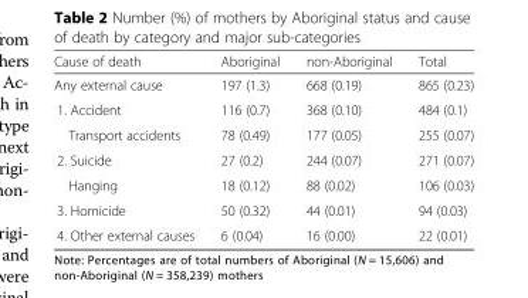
<table><thead><tr><td>Cause of death</td><td>Aboriginal</td><td>non-Aboriginal</td><td>Total</td></tr></thead><tbody><tr><td>Any external cause</td><td>197 (1.3)</td><td>668 (0.19)</td><td>865 (0.23)</td></tr><tr><td>1. Accident</td><td>116 (0.7)</td><td>368 (0.10)</td><td>484 (0.1)</td></tr><tr><td>Transport accidents</td><td>78 (0.49)</td><td>177 (0.05)</td><td>255 (0.07)</td></tr><tr><td>2. Suicide</td><td>27 (0.2)</td><td>244 (0.07)</td><td>271 (0.07)</td></tr><tr><td>Hanging</td><td>18 (0.12)</td><td>88 (0.02)</td><td>106 (0.03)</td></tr><tr><td>3. Homicide</td><td>50 (0.32)</td><td>44 (0.01)</td><td>94 (0.03)</td></tr><tr><td>4. Other external causes</td><td>6 (0.04)</td><td>16 (0.00)</td><td>22 (0.01)</td></tr></tbody></table>